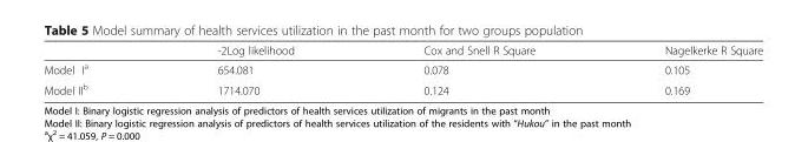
<table><thead><tr><td></td><td>-2Log likelihood</td><td>Cox and Snell R Square</td><td>Nagelkerke R Square</td></tr></thead><tbody><tr><td>Model I<sup>a</sup></td><td>654.081</td><td>0.078</td><td>0.105</td></tr><tr><td>Model II<sup>b</sup></td><td>1714.070</td><td>0.124</td><td>0.169</td></tr></tbody></table>